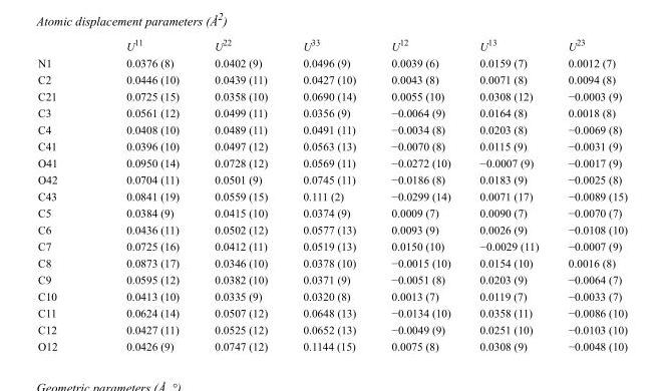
<table><thead><tr><td></td><td>U<sup>11</sup></td><td>U<sup>22</sup></td><td>U<sup>33</sup></td><td>U<sup>12</sup></td><td>U<sup>13</sup></td><td>U<sup>23</sup></td></tr></thead><tbody><tr><td>N1</td><td>0.0376 (8)</td><td>0.0402 (9)</td><td>0.0496 (9)</td><td>0.0039 (6)</td><td>0.0159 (7)</td><td>0.0012 (7)</td></tr><tr><td>C2</td><td>0.0446 (10)</td><td>0.0439 (11)</td><td>0.0427 (10)</td><td>0.0043 (8)</td><td>0.0071 (8)</td><td>0.0094 (8)</td></tr><tr><td>C21</td><td>0.0725 (15)</td><td>0.0358 (10)</td><td>0.0690 (14)</td><td>0.0055 (10)</td><td>0.0308 (12)</td><td>−0.0003 (9)</td></tr><tr><td>C3</td><td>0.0561 (12)</td><td>0.0499 (11)</td><td>0.0356 (9)</td><td>−0.0064 (9)</td><td>0.0164 (8)</td><td>0.0018 (8)</td></tr><tr><td>C4</td><td>0.0408 (10)</td><td>0.0489 (11)</td><td>0.0491 (11)</td><td>−0.0034 (8)</td><td>0.0203 (8)</td><td>−0.0069 (8)</td></tr><tr><td>C41</td><td>0.0396 (10)</td><td>0.0497 (12)</td><td>0.0563 (13)</td><td>−0.0070 (8)</td><td>0.0115 (9)</td><td>−0.0031 (9)</td></tr><tr><td>O41</td><td>0.0950 (14)</td><td>0.0728 (12)</td><td>0.0569 (11)</td><td>−0.0272 (10)</td><td>−0.0007 (9)</td><td>−0.0017 (9)</td></tr><tr><td>O42</td><td>0.0704 (11)</td><td>0.0501 (9)</td><td>0.0745 (11)</td><td>−0.0186 (8)</td><td>0.0183 (9)</td><td>−0.0025 (8)</td></tr><tr><td>C43</td><td>0.0841 (19)</td><td>0.0559 (15)</td><td>0.111 (2)</td><td>−0.0299 (14)</td><td>0.0071 (17)</td><td>−0.0089 (15)</td></tr><tr><td>C5</td><td>0.0384 (9)</td><td>0.0415 (10)</td><td>0.0374 (9)</td><td>0.0009 (7)</td><td>0.0090 (7)</td><td>−0.0070 (7)</td></tr><tr><td>C6</td><td>0.0436 (11)</td><td>0.0502 (12)</td><td>0.0577 (13)</td><td>0.0093 (9)</td><td>0.0026 (9)</td><td>−0.0108 (10)</td></tr><tr><td>C7</td><td>0.0725 (16)</td><td>0.0412 (11)</td><td>0.0519 (13)</td><td>0.0150 (10)</td><td>−0.0029 (11)</td><td>−0.0007 (9)</td></tr><tr><td>C8</td><td>0.0873 (17)</td><td>0.0346 (10)</td><td>0.0378 (10)</td><td>−0.0015 (10)</td><td>0.0154 (10)</td><td>0.0016 (8)</td></tr><tr><td>C9</td><td>0.0595 (12)</td><td>0.0382 (10)</td><td>0.0371 (9)</td><td>−0.0051 (8)</td><td>0.0203 (9)</td><td>−0.0064 (7)</td></tr><tr><td>C10</td><td>0.0413 (10)</td><td>0.0335 (9)</td><td>0.0320 (8)</td><td>0.0013 (7)</td><td>0.0119 (7)</td><td>−0.0033 (7)</td></tr><tr><td>C11</td><td>0.0624 (14)</td><td>0.0507 (12)</td><td>0.0648 (13)</td><td>−0.0134 (10)</td><td>0.0358 (11)</td><td>−0.0086 (10)</td></tr><tr><td>C12</td><td>0.0427 (11)</td><td>0.0525 (12)</td><td>0.0652 (13)</td><td>−0.0049 (9)</td><td>0.0251 (10)</td><td>−0.0103 (10)</td></tr><tr><td>O12</td><td>0.0426 (9)</td><td>0.0747 (12)</td><td>0.1144 (15)</td><td>0.0075 (8)</td><td>0.0308 (9)</td><td>−0.0048 (10)</td></tr></tbody></table>